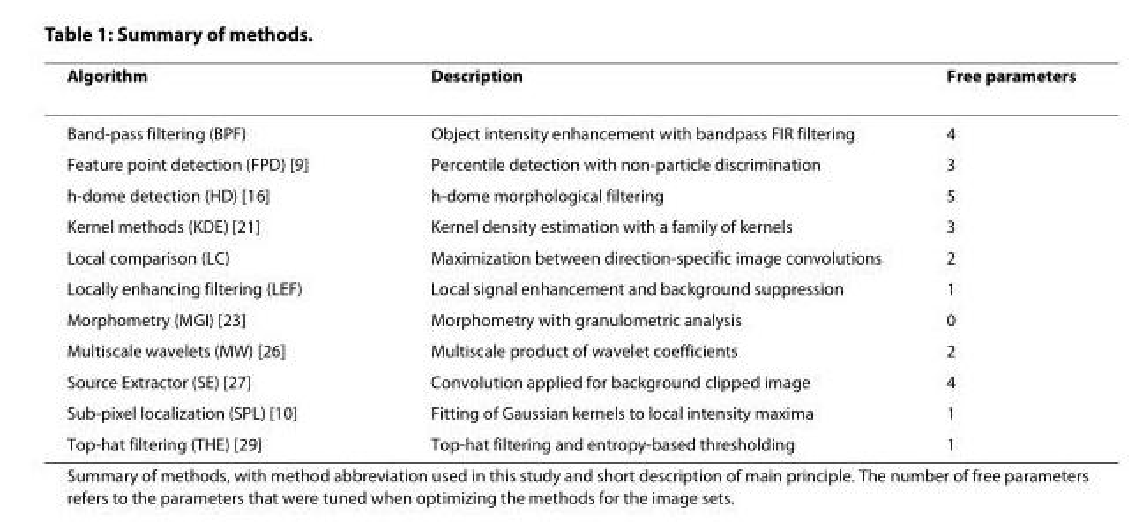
<table><thead><tr><td>Algorithm</td><td>Description</td><td>Free parameters</td></tr></thead><tbody><tr><td>Band-pass filtering (BPF)</td><td>Object intensity enhancement with bandpass FIR filtering</td><td>4</td></tr><tr><td>Feature point detection (FPD) [9]</td><td>Percentile detection with non-particle discrimination</td><td>3</td></tr><tr><td>h-dome detection (HD) [16]</td><td>h-dome morphological filtering</td><td>5</td></tr><tr><td>Kernel methods (KDE) [21]</td><td>Kernel density estimation with a family of kernels</td><td>3</td></tr><tr><td>Local comparison (LC)</td><td>Maximization between direction-specific image convolutions</td><td>2</td></tr><tr><td>Locally enhancing filtering (LEF)</td><td>Local signal enhancement and background suppression</td><td>1</td></tr><tr><td>Morphometry (MGI) [23]</td><td>Morphometry with granulometric analysis</td><td>0</td></tr><tr><td>Multiscale wavelets (MW) [26]</td><td>Multiscale product of wavelet coefficients</td><td>2</td></tr><tr><td>Source Extractor (SE) [27]</td><td>Convolution applied for background clipped image</td><td>4</td></tr><tr><td>Sub-pixel localization (SPL) [10]</td><td>Fitting of Gaussian kernels to local intensity maxima</td><td>1</td></tr><tr><td>Top-hat filtering (THE) [29]</td><td>Top-hat filtering and entropy-based thresholding</td><td>1</td></tr></tbody></table>